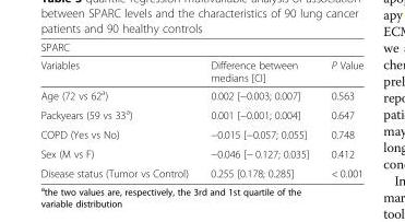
<table><thead><tr><td colspan="3">SPARC</td></tr><tr><td>Variables</td><td>Difference between medians [CI]</td><td>P Value</td></tr></thead><tbody><tr><td>Age (72 vs 62<sup>a</sup>)</td><td>0.002 [−0.003; 0.007]</td><td>0.563</td></tr><tr><td>Packyears (59 vs 33<sup>a</sup>)</td><td>0.001 [−0.001; 0.004]</td><td>0.647</td></tr><tr><td>COPD (Yes vs No)</td><td>−0.015 [−0.057; 0.055]</td><td>0.748</td></tr><tr><td>Sex (M vs F)</td><td>−0.046 [− 0.127; 0.035]</td><td>0.412</td></tr><tr><td>Disease status (Tumor vs Control)</td><td>0.255 [0.178; 0.285]</td><td>&lt; 0.001</td></tr></tbody></table>